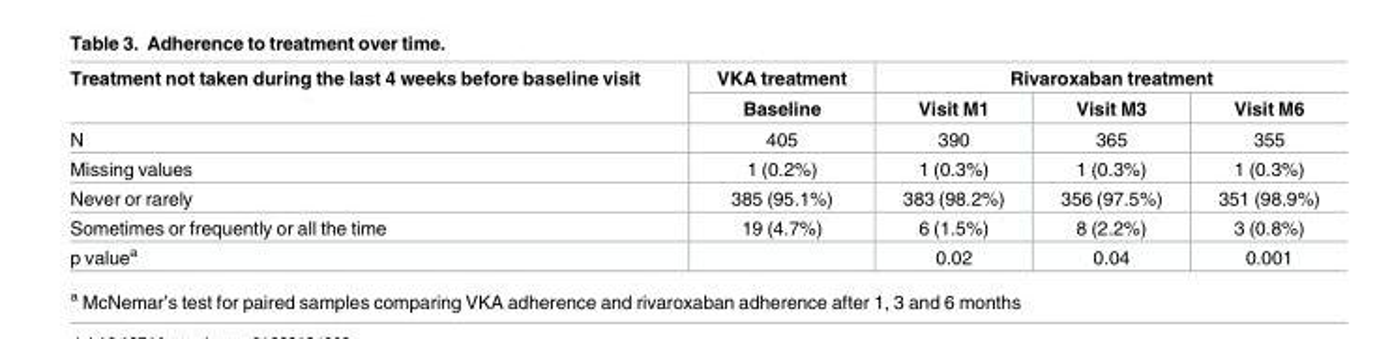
<table><thead><tr><td rowspan="2">Treatment not taken during the last 4 weeks before baseline visit</td><td rowspan="2">VKA treatment Baseline</td><td colspan="3">Rivaroxaban treatment</td></tr><tr><td>Visit M1</td><td>Visit M3</td><td>Visit M6</td></tr></thead><tbody><tr><td>N</td><td>405</td><td>390</td><td>365</td><td>355</td></tr><tr><td>Missing values</td><td>1 (0.2%)</td><td>1 (0.3%)</td><td>1 (0.3%)</td><td>1 (0.3%)</td></tr><tr><td>Never or rarely</td><td>385 (95.1%)</td><td>383 (98.2%)</td><td>356 (97.5%)</td><td>351 (98.9%)</td></tr><tr><td>Sometimes or frequently or all the time</td><td>19 (4.7%)</td><td>6 (1.5%)</td><td>8 (2.2%)</td><td>3 (0.8%)</td></tr><tr><td>p value<sup>a</sup></td><td></td><td>0.02</td><td>0.04</td><td>0.001</td></tr></tbody></table>